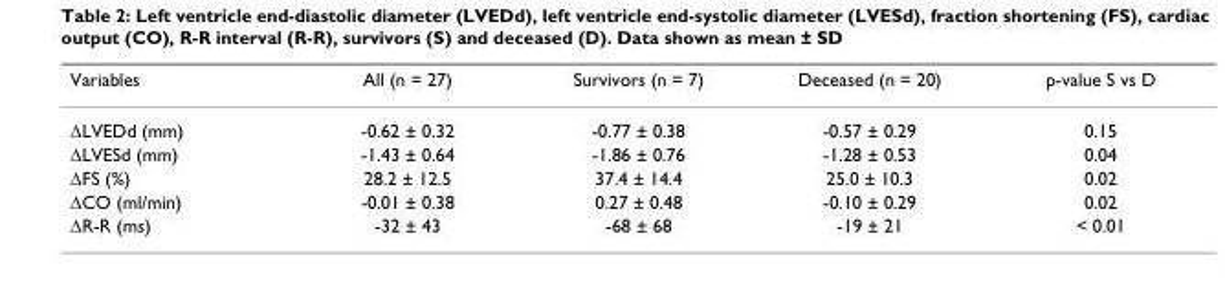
<table><thead><tr><td>Variables</td><td>All (n = 27)</td><td>Survivors (n = 7)</td><td>Deceased (n = 20)</td><td>p-value S vs D</td></tr></thead><tbody><tr><td>∆LVEDd (mm)</td><td>-0.62 ± 0.32</td><td>-0.77 ± 0.38</td><td>-0.57 ± 0.29</td><td>0.15</td></tr><tr><td>∆LVESd (mm)</td><td>-1.43 ± 0.64</td><td>-1.86 ± 0.76</td><td>-1.28 ± 0.53</td><td>0.04</td></tr><tr><td>∆FS (%)</td><td>28.2 ± 12.5</td><td>37.4 ± 14.4</td><td>25.0 ± 10.3</td><td>0.02</td></tr><tr><td>∆CO (ml/min)</td><td>-0.01 ± 0.38</td><td>0.27 ± 0.48</td><td>-0.10 ± 0.29</td><td>0.02</td></tr><tr><td>∆R-R (ms)</td><td>-32 ± 43</td><td>-68 ± 68</td><td>-19 ± 21</td><td>&lt; 0.01</td></tr></tbody></table>